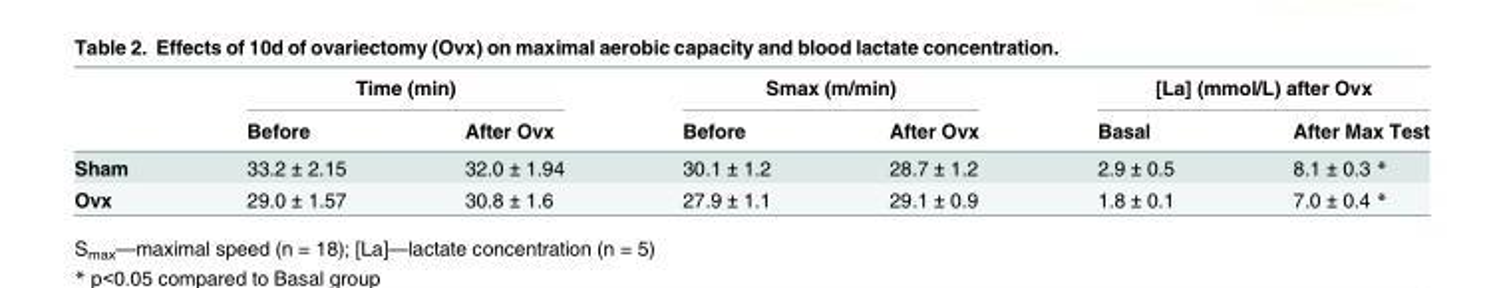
<table><thead><tr><td rowspan="2"></td><td colspan="2">Time (min)</td><td colspan="2">Smax (m/min)</td><td colspan="2">[La] (mmol/L) after Ovx</td></tr><tr><td>Before</td><td>After Ovx</td><td>Before</td><td>After Ovx</td><td>Basal</td><td>After Max Test</td></tr></thead><tbody><tr><td>Sham</td><td>33.2 ± 2.15</td><td>32.0 ± 1.94</td><td>30.1 ± 1.2</td><td>28.7 ± 1.2</td><td>2.9 ± 0.5</td><td>8.1 ± 0.3 *</td></tr><tr><td>Ovx</td><td>29.0 ± 1.57</td><td>30.8 ± 1.6</td><td>27.9 ± 1.1</td><td>29.1 ± 0.9</td><td>1.8 ± 0.1</td><td>7.0 ± 0.4 *</td></tr></tbody></table>